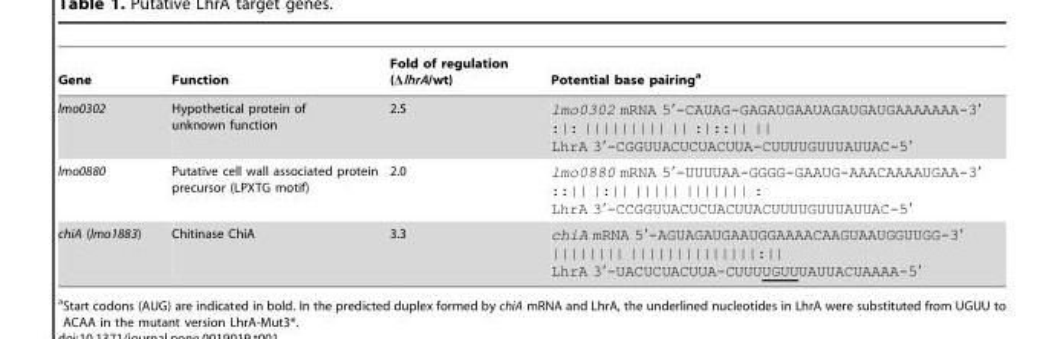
<table><thead><tr><td>Gene</td><td>Function</td><td>Fold of regulation (ΔlhrA/wt)</td><td>Potential base pairing<sup>a</sup></td></tr></thead><tbody><tr><td>lmo0302</td><td>Hypothetical protein of unknown function</td><td>2.5</td><td>lmo0302 mRNA 5′-CAUAG-GAGAUGAAUAGAUGAUGAAAAAAA-3′ :|: ||||||||| || :|::|| || LhrA 3′-CGGUUACUCUACUUA-CUUUUGUUUAUUAC-5′</td></tr><tr><td>lmo0880</td><td>Putative cell wall associated protein precursor (LPXTG motif)</td><td>2.0</td><td>lmo0880 mRNA 5′-UUUUAA-GGGG-GAAUG-AAACAAAAUGAA-3′ ::|| |:|| ||||| ||||||| : LhrA 3′-CCGGUUACUCUACUUACUUUUGUUUAUUAC-5′</td></tr><tr><td>chiA (lmo1883)</td><td>Chitinase ChiA</td><td>3.3</td><td>chiA mRNA 5′-AGUAGAUGAAUGGAAAACAAGUAAUGGUUGG-3′ |||||||| ||||||||||||||:|| LhrA 3′-UACUCUACUUA-CUUUUGUUUAUUACUAAAA-5′</td></tr></tbody></table>